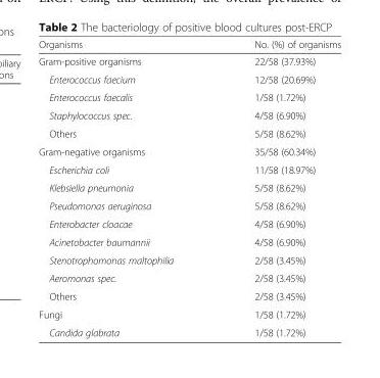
<table><thead><tr><td>Organisms</td><td>No. (%) of organisms</td></tr></thead><tbody><tr><td>Gram-positive organisms</td><td>22/58 (37.93%)</td></tr><tr><td>Enterococcus faecium</td><td>12/58 (20.69%)</td></tr><tr><td>Enterococcus faecalis</td><td>1/58 (1.72%)</td></tr><tr><td>Staphylococcus spec.</td><td>4/58 (6.90%)</td></tr><tr><td>Others</td><td>5/58 (8.62%)</td></tr><tr><td>Gram-negative organisms</td><td>35/58 (60.34%)</td></tr><tr><td>Escherichia coli</td><td>11/58 (18.97%)</td></tr><tr><td>Klebsiella pneumonia</td><td>5/58 (8.62%)</td></tr><tr><td>Pseudomonas aeruginosa</td><td>5/58 (8.62%)</td></tr><tr><td>Enterobacter cloacae</td><td>4/58 (6.90%)</td></tr><tr><td>Acinetobacter baumannii</td><td>4/58 (6.90%)</td></tr><tr><td>Stenotrophomonas maltophilia</td><td>2/58 (3.45%)</td></tr><tr><td>Aeromonas spec.</td><td>2/58 (3.45%)</td></tr><tr><td>Others</td><td>2/58 (3.45%)</td></tr><tr><td>Fungi</td><td>1/58 (1.72%)</td></tr><tr><td>Candida glabrata</td><td>1/58 (1.72%)</td></tr></tbody></table>